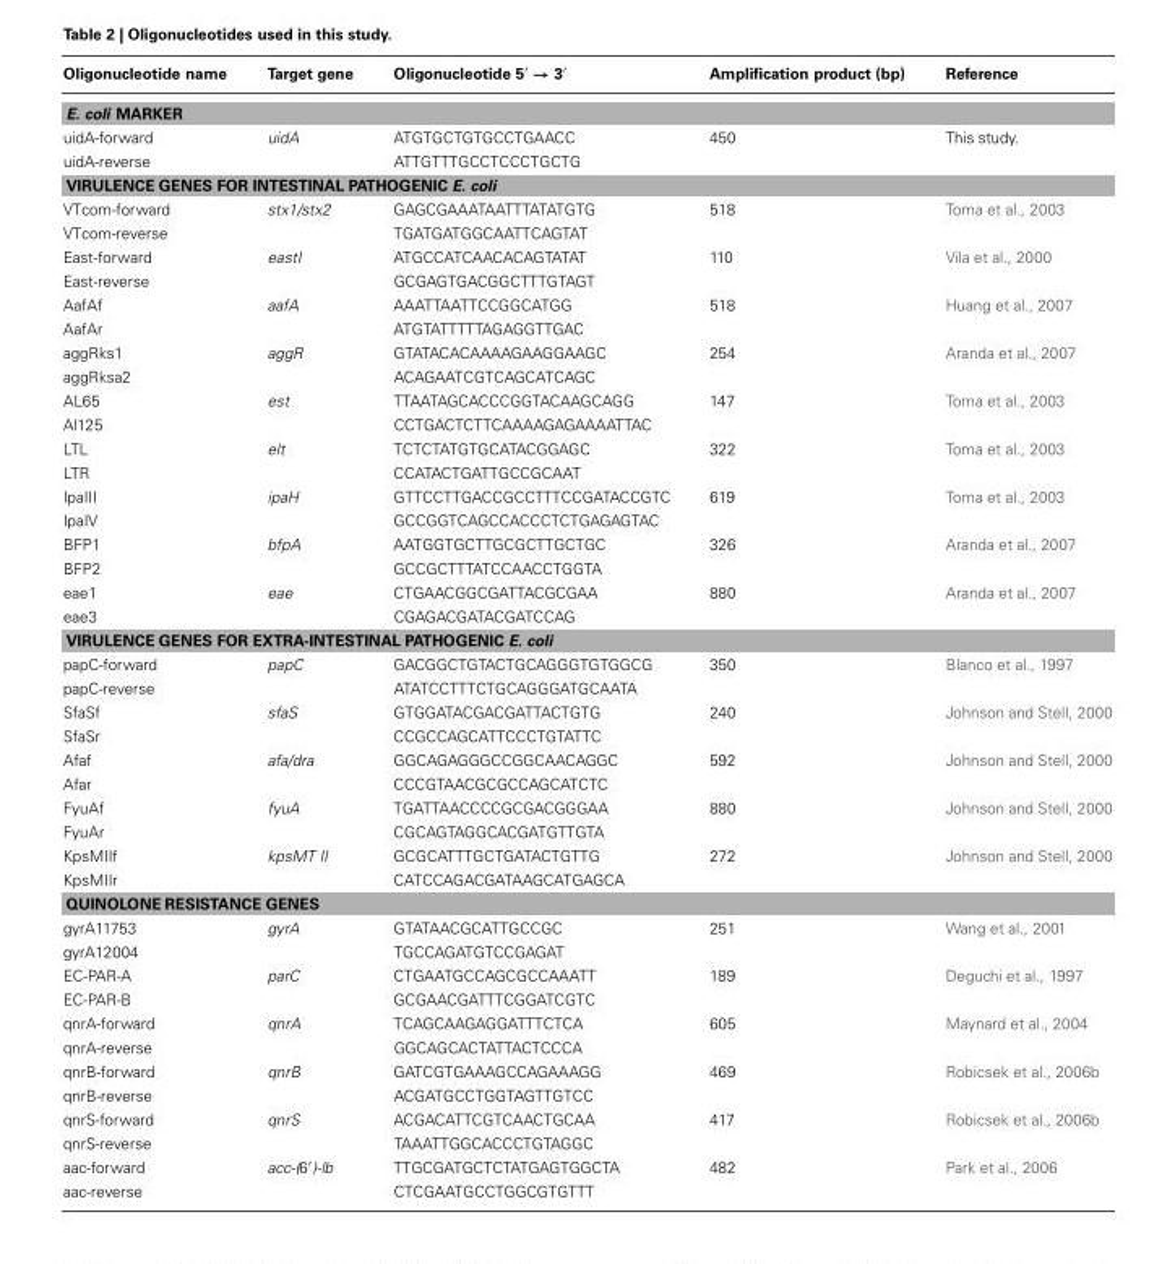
<table><thead><tr><td>Oligonucleotide name</td><td>Target gene</td><td>Oligonucleotide 5′ → 3′</td><td>Amplification product (bp)</td><td>Reference</td></tr></thead><tbody><tr><td colspan="5">E. coli MARKER</td></tr><tr><td>uidA-forward</td><td>uidA</td><td>ATGTGCTGTGCCTGAACC</td><td>450</td><td>This study.</td></tr><tr><td>uidA-reverse</td><td></td><td>ATTGTTTGCCTCCCTGCTG</td><td></td><td></td></tr><tr><td colspan="5">VIRULENCE GENES FOR INTESTINAL PATHOGENIC E. coli</td></tr><tr><td>VTcom-forward</td><td>stx1/stx2</td><td>GAGCGAAATAATTTATATGTG</td><td>518</td><td>Toma et al., 2003</td></tr><tr><td>VTcom-reverse</td><td></td><td>TGATGATGGCAATTCAGTAT</td><td></td><td></td></tr><tr><td>East-forward</td><td>eastI</td><td>ATGCCATCAACACAGTATAT</td><td>110</td><td>Vila et al., 2000</td></tr><tr><td>East-reverse</td><td></td><td>GCGAGTGACGGCTTTGTAGT</td><td></td><td></td></tr><tr><td>AafAf</td><td>aafA</td><td>AAATTAATTCCGGCATGG</td><td>518</td><td>Huang et al., 2007</td></tr><tr><td>AafAr</td><td></td><td>ATGTATTTTTAGAGGTTGAC</td><td></td><td></td></tr><tr><td>aggRks1</td><td>aggR</td><td>GTATACACAAAAGAAGGAAGC</td><td>254</td><td>Aranda et al., 2007</td></tr><tr><td>aggRksa2</td><td></td><td>ACAGAATCGTCAGCATCAGC</td><td></td><td></td></tr><tr><td>AL65</td><td>est</td><td>TTAATAGCACCCGGTACAAGCAGG</td><td>147</td><td>Toma et al., 2003</td></tr><tr><td>Al125</td><td></td><td>CCTGACTCTTCAAAAGAGAAAATTAC</td><td></td><td></td></tr><tr><td>LTL</td><td>elt</td><td>TCTCTATGTGCATACGGAGC</td><td>322</td><td>Toma et al., 2003</td></tr><tr><td>LTR</td><td></td><td>CCATACTGATTGCCGCAAT</td><td></td><td></td></tr><tr><td>IpaIII</td><td>ipaH</td><td>GTTCCTTGACCGCCTTTCCGATACCGTC</td><td>619</td><td>Toma et al., 2003</td></tr><tr><td>IpaIV</td><td></td><td>GCCGGTCAGCCACCCTCTGAGAGTAC</td><td></td><td></td></tr><tr><td>BFP1</td><td>bfpA</td><td>AATGGTGCTTGCGCTTGCTGC</td><td>326</td><td>Aranda et al., 2007</td></tr><tr><td>BFP2</td><td></td><td>GCCGCTTTATCCAACCTGGTA</td><td></td><td></td></tr><tr><td>eae1</td><td>eae</td><td>CTGAACGGCGATTACGCGAA</td><td>880</td><td>Aranda et al., 2007</td></tr><tr><td>eae3</td><td></td><td>CGAGACGATACGATCCAG</td><td></td><td></td></tr><tr><td colspan="5">VIRULENCE GENES FOR EXTRA-INTESTINAL PATHOGENIC E. coli</td></tr><tr><td>papC-forward</td><td>papC</td><td>GACGGCTGTACTGCAGGGTGTGGCG</td><td>350</td><td>Blanco et al., 1997</td></tr><tr><td>papC-reverse</td><td></td><td>ATATCCTTTCTGCAGGGATGCAATA</td><td></td><td></td></tr><tr><td>SfaSf</td><td>sfaS</td><td>GTGGATACGACGATTACTGTG</td><td>240</td><td>Johnson and Stell, 2000</td></tr><tr><td>SfaSr</td><td></td><td>CCGCCAGCATTCCCTGTATTC</td><td></td><td></td></tr><tr><td>Afaf</td><td>afa/dra</td><td>GGCAGAGGGCCGGCAACAGGC</td><td>592</td><td>Johnson and Stell, 2000</td></tr><tr><td>Afar</td><td></td><td>CCCGTAACGCGCCAGCATCTC</td><td></td><td></td></tr><tr><td>FyuAf</td><td>fyuA</td><td>TGATTAACCCCGCGACGGGAA</td><td>880</td><td>Johnson and Stell, 2000</td></tr><tr><td>FyuAr</td><td></td><td>CGCAGTAGGCACGATGTTGTA</td><td></td><td></td></tr><tr><td>KpsMIIf</td><td>kpsMT II</td><td>GCGCATTTGCTGATACTGTTG</td><td>272</td><td>Johnson and Stell, 2000</td></tr><tr><td>KpsMIIr</td><td></td><td>CATCCAGACGATAAGCATGAGCA</td><td></td><td></td></tr><tr><td colspan="5">QUINOLONE RESISTANCE GENES</td></tr><tr><td>gyrA11753</td><td>gyrA</td><td>GTATAACGCATTGCCGC</td><td>251</td><td>Wang et al., 2001</td></tr><tr><td>gyrA12004</td><td></td><td>TGCCAGATGTCCGAGAT</td><td></td><td></td></tr><tr><td>EC-PAR-A</td><td>parC</td><td>CTGAATGCCAGCGCCAAATT</td><td>189</td><td>Deguchi et al., 1997</td></tr><tr><td>EC-PAR-B</td><td></td><td>GCGAACGATTTCGGATCGTC</td><td></td><td></td></tr><tr><td>qnrA-forward</td><td>qnrA</td><td>TCAGCAAGAGGATTTCTCA</td><td>605</td><td>Maynard et al., 2004</td></tr><tr><td>qnrA-reverse</td><td></td><td>GGCAGCACTATTACTCCCA</td><td></td><td></td></tr><tr><td>qnrB-forward</td><td>qnrB</td><td>GATCGTGAAAGCCAGAAAGG</td><td>469</td><td>Robicsek et al., 2006b</td></tr><tr><td>qnrB-reverse</td><td></td><td>ACGATGCCTGGTAGTTGTCC</td><td></td><td></td></tr><tr><td>qnrS-forward</td><td>qnrS</td><td>ACGACATTCGTCAACTGCAA</td><td>417</td><td>Robicsek et al., 2006b</td></tr><tr><td>qnrS-reverse</td><td></td><td>TAAATTGGCACCCTGTAGGC</td><td></td><td></td></tr><tr><td>aac-forward</td><td>acc-(6′)-lb</td><td>TTGCGATGCTCTATGAGTGGCTA</td><td>482</td><td>Park et al., 2006</td></tr><tr><td>aac-reverse</td><td></td><td>CTCGAATGCCTGGCGTGTTT</td><td></td><td></td></tr></tbody></table>